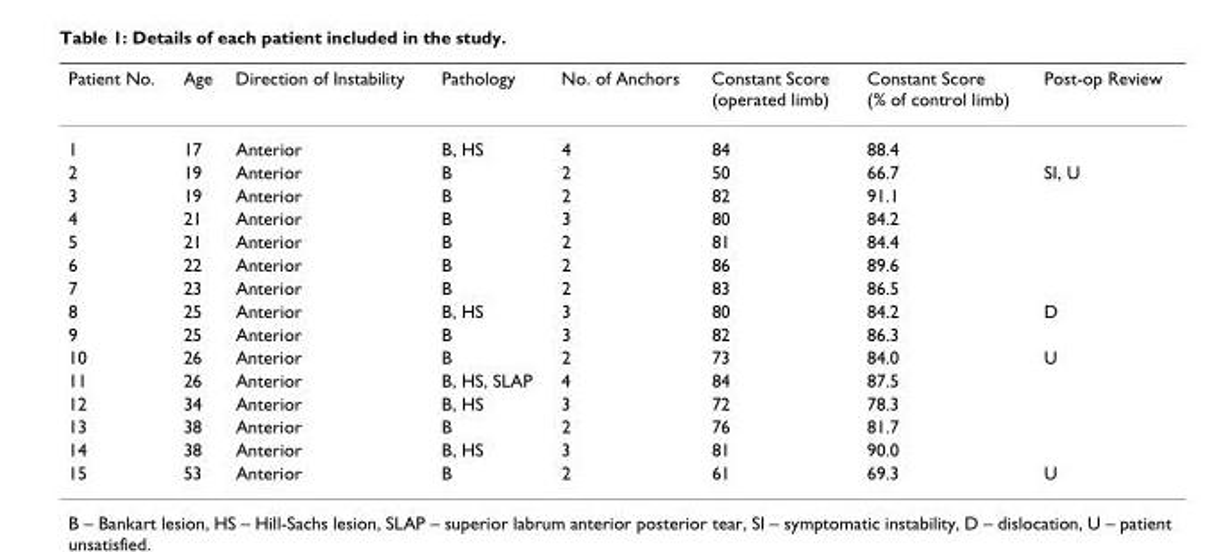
<table><thead><tr><td>Patient No.</td><td>Age</td><td>Direction of Instability</td><td>Pathology</td><td>No. of Anchors</td><td>Constant Score (operated limb)</td><td>Constant Score (% of control limb)</td><td>Post-op Review</td></tr></thead><tbody><tr><td>1</td><td>17</td><td>Anterior</td><td>B, HS</td><td>4</td><td>84</td><td>88.4</td><td></td></tr><tr><td>2</td><td>19</td><td>Anterior</td><td>B</td><td>2</td><td>50</td><td>66.7</td><td>SI, U</td></tr><tr><td>3</td><td>19</td><td>Anterior</td><td>B</td><td>2</td><td>82</td><td>91.1</td><td></td></tr><tr><td>4</td><td>21</td><td>Anterior</td><td>B</td><td>3</td><td>80</td><td>84.2</td><td></td></tr><tr><td>5</td><td>21</td><td>Anterior</td><td>B</td><td>2</td><td>81</td><td>84.4</td><td></td></tr><tr><td>6</td><td>22</td><td>Anterior</td><td>B</td><td>2</td><td>86</td><td>89.6</td><td></td></tr><tr><td>7</td><td>23</td><td>Anterior</td><td>B</td><td>2</td><td>83</td><td>86.5</td><td></td></tr><tr><td>8</td><td>25</td><td>Anterior</td><td>B, HS</td><td>3</td><td>80</td><td>84.2</td><td>D</td></tr><tr><td>9</td><td>25</td><td>Anterior</td><td>B</td><td>3</td><td>82</td><td>86.3</td><td></td></tr><tr><td>10</td><td>26</td><td>Anterior</td><td>B</td><td>2</td><td>73</td><td>84.0</td><td>U</td></tr><tr><td>11</td><td>26</td><td>Anterior</td><td>B, HS, SLAP</td><td>4</td><td>84</td><td>87.5</td><td></td></tr><tr><td>12</td><td>34</td><td>Anterior</td><td>B, HS</td><td>3</td><td>72</td><td>78.3</td><td></td></tr><tr><td>13</td><td>38</td><td>Anterior</td><td>B</td><td>2</td><td>76</td><td>81.7</td><td></td></tr><tr><td>14</td><td>38</td><td>Anterior</td><td>B, HS</td><td>3</td><td>81</td><td>90.0</td><td></td></tr><tr><td>15</td><td>53</td><td>Anterior</td><td>B</td><td>2</td><td>61</td><td>69.3</td><td>U</td></tr></tbody></table>